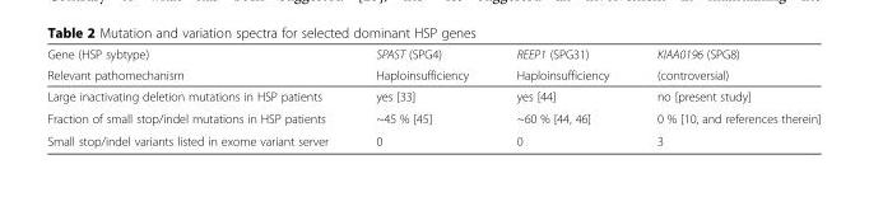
<table><thead><tr><td rowspan="2">Gene (HSP sybtype) Relevant pathomechanism</td><td rowspan="2">SPAST (SPG4) Haploinsufficiency</td><td rowspan="2">REEP1 (SPG31) Haploinsufficiency</td><td rowspan="2">KIAA0196 (SPG8) (controversial)</td></tr><tr></tr></thead><tbody><tr><td>Large inactivating deletion mutations in HSP patients</td><td>yes [33]</td><td>yes [44]</td><td>no [present study]</td></tr><tr><td>Fraction of small stop/indel mutations in HSP patients</td><td>~45 % [45]</td><td>~60 % [44, 46]</td><td>0 % [10, and references therein]</td></tr><tr><td>Small stop/indel variants listed in exome variant server</td><td>0</td><td>0</td><td>3</td></tr></tbody></table>